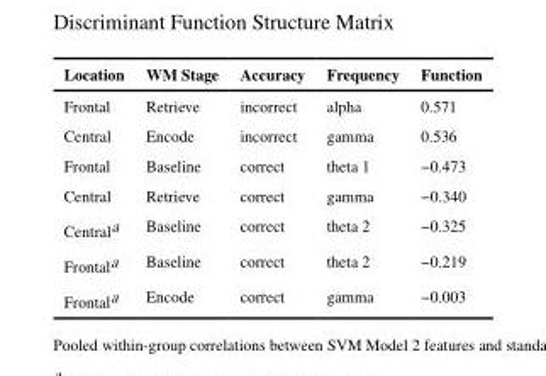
<table><thead><tr><td>Location</td><td>WM Stage</td><td>Accuracy</td><td>Frequency</td><td>Function</td></tr></thead><tbody><tr><td>Frontal</td><td>Retrieve</td><td>incorrect</td><td>alpha</td><td>0.571</td></tr><tr><td>Central</td><td>Encode</td><td>incorrect</td><td>gamma</td><td>0.536</td></tr><tr><td>Frontal</td><td>Baseline</td><td>correct</td><td>theta 1</td><td>−0.473</td></tr><tr><td>Central</td><td>Retrieve</td><td>correct</td><td>gamma</td><td>−0.340</td></tr><tr><td>Central<sup>a</sup></td><td>Baseline</td><td>correct</td><td>theta 2</td><td>−0.325</td></tr><tr><td>Frontal<sup>a</sup></td><td>Baseline</td><td>correct</td><td>theta 2</td><td>−0.219</td></tr><tr><td>Frontal<sup>a</sup></td><td>Encode</td><td>correct</td><td>gamma</td><td>−0.003</td></tr></tbody></table>